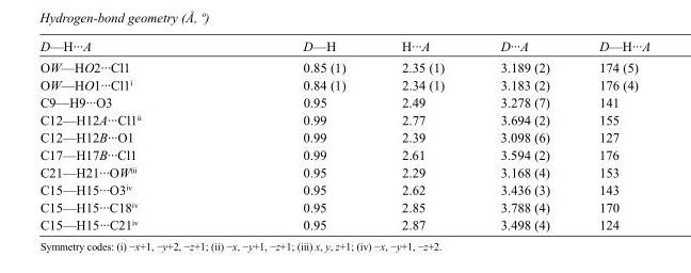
<table><tbody><tr><td>D—H···A</td><td>D—H</td><td>H···A</td><td>D···A</td><td>D—H···A</td></tr><tr><td>OW—HO2···Cl1</td><td>0.85 (1)</td><td>2.35 (1)</td><td>3.189 (2)</td><td>174 (5)</td></tr><tr><td>OW—HO1···Cl1<sup>i</sup></td><td>0.84 (1)</td><td>2.34 (1)</td><td>3.183 (2)</td><td>176 (4)</td></tr><tr><td>C9—H9···O3</td><td>0.95</td><td>2.49</td><td>3.278 (7)</td><td>141</td></tr><tr><td>C12—H12A···Cl1<sup>ii</sup></td><td>0.99</td><td>2.77</td><td>3.694 (2)</td><td>155</td></tr><tr><td>C12—H12B···O1</td><td>0.99</td><td>2.39</td><td>3.098 (6)</td><td>127</td></tr><tr><td>C17—H17B···Cl1</td><td>0.99</td><td>2.61</td><td>3.594 (2)</td><td>176</td></tr><tr><td>C21—H21···OW<sup>iii</sup></td><td>0.95</td><td>2.29</td><td>3.168 (4)</td><td>153</td></tr><tr><td>C15—H15···O3<sup>iv</sup></td><td>0.95</td><td>2.62</td><td>3.436 (3)</td><td>143</td></tr><tr><td>C15—H15···C18<sup>iv</sup></td><td>0.95</td><td>2.85</td><td>3.788 (4)</td><td>170</td></tr><tr><td>C15—H15···C21<sup>iv</sup></td><td>0.95</td><td>2.87</td><td>3.498 (4)</td><td>124</td></tr></tbody></table>